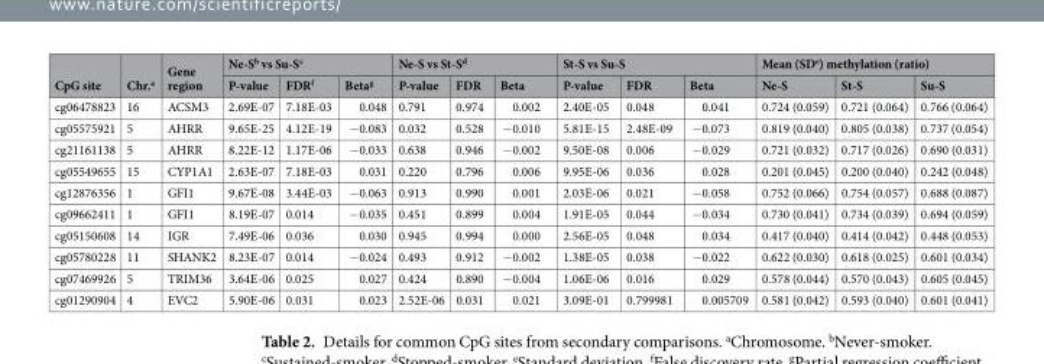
<table><thead><tr><td rowspan="2">CpG site</td><td rowspan="2">Chr.<sup>a</sup></td><td rowspan="2">Gene region</td><td colspan="3">Ne-S<sup>b</sup> vs Su-S<sup>c</sup></td><td colspan="3">Ne-S vs St-S<sup>d</sup></td><td colspan="3">St-S vs Su-S</td><td colspan="3">Mean (SD<sup>e</sup>) methylation (ratio)</td></tr><tr><td>P-value</td><td>FDR<sup>f</sup></td><td>Beta<sup>g</sup></td><td>P-value</td><td>FDR</td><td>Beta</td><td>P-value</td><td>FDR</td><td>Beta</td><td>Ne-S</td><td>St-S</td><td>Su-S</td></tr></thead><tbody><tr><td>cg06478823</td><td>16</td><td>ACSM3</td><td>2.69E-07</td><td>7.18E-03</td><td>0.048</td><td>0.791</td><td>0.974</td><td>0.002</td><td>2.40E-05</td><td>0.048</td><td>0.041</td><td>0.724 (0.059)</td><td>0.721 (0.064)</td><td>0.766 (0.064)</td></tr><tr><td>cg05575921</td><td>5</td><td>AHRR</td><td>9.65E-25</td><td>4.12E-19</td><td>−0.083</td><td>0.032</td><td>0.528</td><td>−0.010</td><td>5.81E-15</td><td>2.48E-09</td><td>−0.073</td><td>0.819 (0.040)</td><td>0.805 (0.038)</td><td>0.737 (0.054)</td></tr><tr><td>cg21161138</td><td>5</td><td>AHRR</td><td>8.22E-12</td><td>1.17E-06</td><td>−0.033</td><td>0.638</td><td>0.946</td><td>−0.002</td><td>9.50E-08</td><td>0.006</td><td>−0.029</td><td>0.721 (0.032)</td><td>0.717 (0.026)</td><td>0.690 (0.031)</td></tr><tr><td>cg05549655</td><td>15</td><td>CYP1A1</td><td>2.63E-07</td><td>7.18E-03</td><td>0.031</td><td>0.220</td><td>0.796</td><td>0.006</td><td>9.95E-06</td><td>0.036</td><td>0.028</td><td>0.201 (0.045)</td><td>0.200 (0.040)</td><td>0.242 (0.048)</td></tr><tr><td>cg12876356</td><td>1</td><td>GFI1</td><td>9.67E-08</td><td>3.44E-03</td><td>−0.063</td><td>0.913</td><td>0.990</td><td>0.001</td><td>2.03E-06</td><td>0.021</td><td>−0.058</td><td>0.752 (0.066)</td><td>0.754 (0.057)</td><td>0.688 (0.087)</td></tr><tr><td>cg09662411</td><td>1</td><td>GFI1</td><td>8.19E-07</td><td>0.014</td><td>−0.035</td><td>0.451</td><td>0.899</td><td>0.004</td><td>1.91E-05</td><td>0.044</td><td>−0.034</td><td>0.730 (0.041)</td><td>0.734 (0.039)</td><td>0.694 (0.059)</td></tr><tr><td>cg05150608</td><td>14</td><td>IGR</td><td>7.49E-06</td><td>0.036</td><td>0.030</td><td>0.945</td><td>0.994</td><td>0.000</td><td>2.56E-05</td><td>0.048</td><td>0.034</td><td>0.417 (0.040)</td><td>0.414 (0.042)</td><td>0.448 (0.053)</td></tr><tr><td>cg05780228</td><td>11</td><td>SHANK2</td><td>8.23E-07</td><td>0.014</td><td>−0.024</td><td>0.493</td><td>0.912</td><td>−0.002</td><td>1.38E-05</td><td>0.038</td><td>−0.022</td><td>0.622 (0.030)</td><td>0.618 (0.025)</td><td>0.601 (0.034)</td></tr><tr><td>cg07469926</td><td>5</td><td>TRIM36</td><td>3.64E-06</td><td>0.025</td><td>0.027</td><td>0.424</td><td>0.890</td><td>−0.004</td><td>1.06E-06</td><td>0.016</td><td>0.029</td><td>0.578 (0.044)</td><td>0.570 (0.043)</td><td>0.605 (0.045)</td></tr><tr><td>cg01290904</td><td>4</td><td>EVC2</td><td>5.90E-06</td><td>0.031</td><td>0.023</td><td>2.52E-06</td><td>0.031</td><td>0.021</td><td>3.09E-01</td><td>0.799981</td><td>0.005709</td><td>0.581 (0.042)</td><td>0.593 (0.040)</td><td>0.601 (0.041)</td></tr></tbody></table>